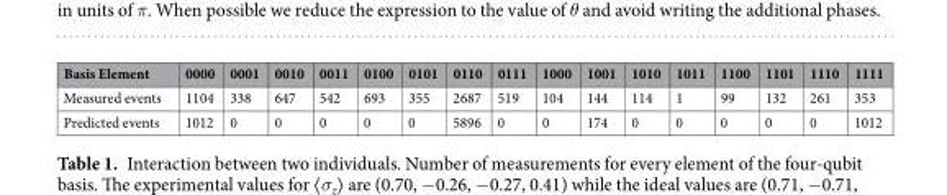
<table><thead><tr><td>Basis Element</td><td>0000</td><td>0001</td><td>0010</td><td>0011</td><td>0100</td><td>0101</td><td>0110</td><td>0111</td><td>1000</td><td>1001</td><td>1010</td><td>1011</td><td>1100</td><td>1101</td><td>1110</td><td>1111</td></tr></thead><tbody><tr><td>Measured events</td><td>1104</td><td>338</td><td>647</td><td>542</td><td>693</td><td>355</td><td>2687</td><td>519</td><td>104</td><td>144</td><td>114</td><td>1</td><td>99</td><td>132</td><td>261</td><td>353</td></tr><tr><td>Predicted events</td><td>1012</td><td>0</td><td>0</td><td>0</td><td>0</td><td>0</td><td>5896</td><td>0</td><td>0</td><td>174</td><td>0</td><td>0</td><td>0</td><td>0</td><td>0</td><td>1012</td></tr></tbody></table>